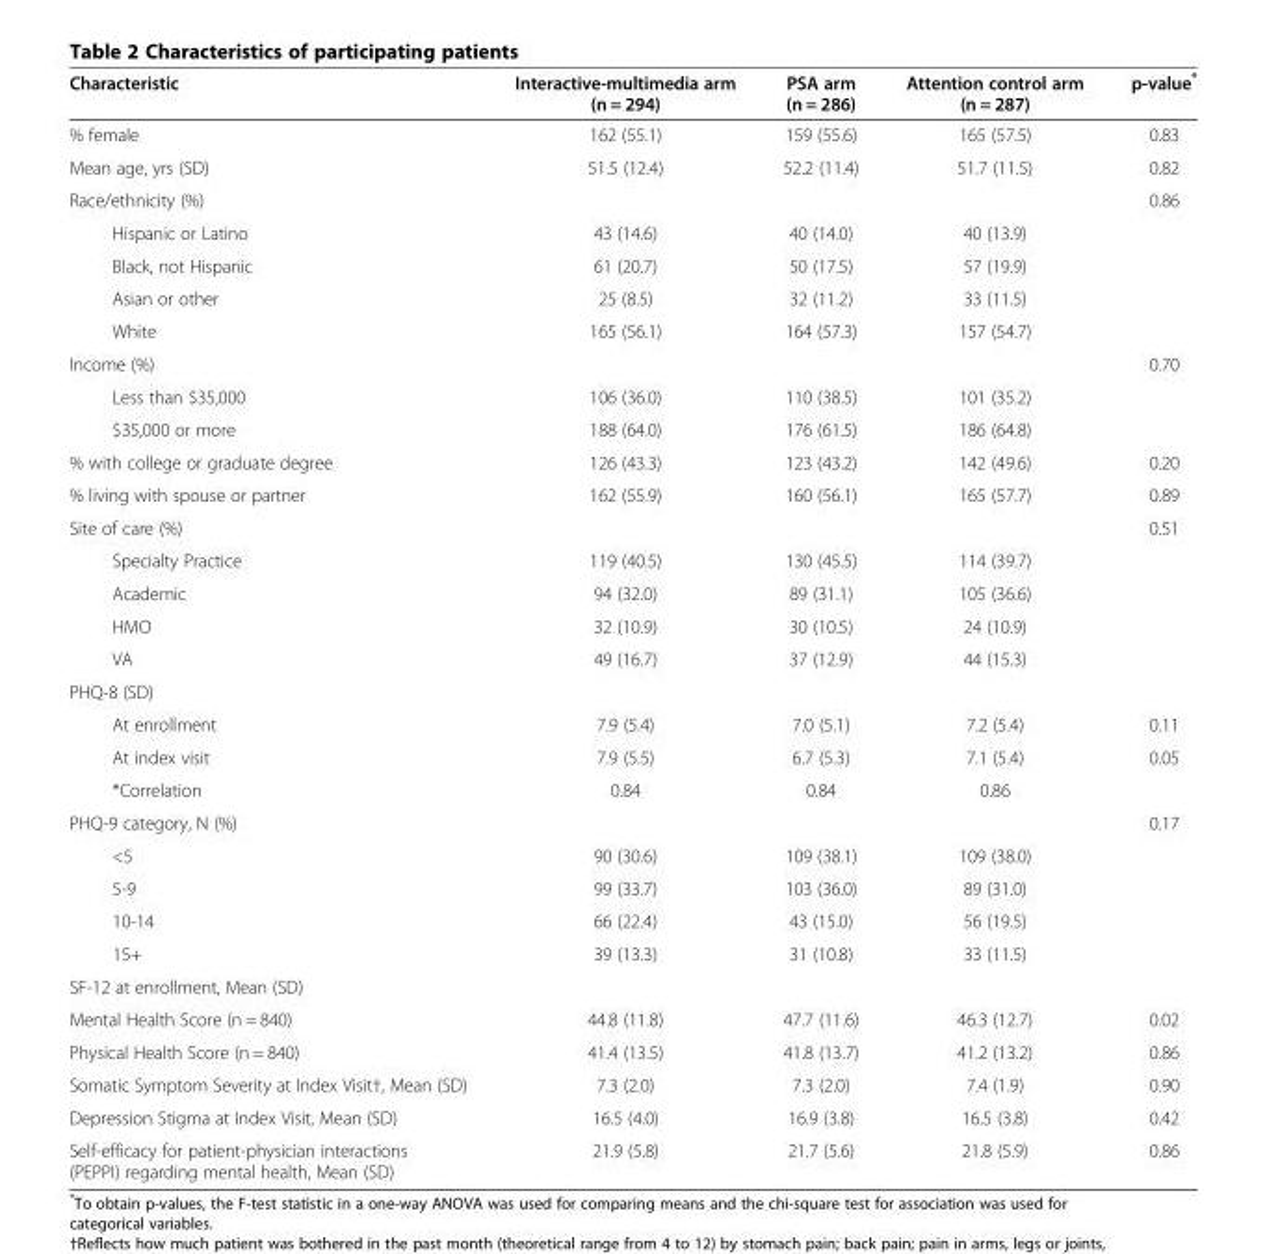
<table><thead><tr><td>Characteristic</td><td>Interactive-multimedia arm (n = 294)</td><td>PSA arm (n = 286)</td><td>Attention control arm (n = 287)</td><td>p-value*</td></tr></thead><tbody><tr><td>% female</td><td>162 (55.1)</td><td>159 (55.6)</td><td>165 (57.5)</td><td>0.83</td></tr><tr><td>Mean age, yrs (SD)</td><td>51.5 (12.4)</td><td>52.2 (11.4)</td><td>51.7 (11.5)</td><td>0.82</td></tr><tr><td>Race/ethnicity (%)</td><td></td><td></td><td></td><td>0.86</td></tr><tr><td>Hispanic or Latino</td><td>43 (14.6)</td><td>40 (14.0)</td><td>40 (13.9)</td><td></td></tr><tr><td>Black, not Hispanic</td><td>61 (20.7)</td><td>50 (17.5)</td><td>57 (19.9)</td><td></td></tr><tr><td>Asian or other</td><td>25 (8.5)</td><td>32 (11.2)</td><td>33 (11.5)</td><td></td></tr><tr><td>White</td><td>165 (56.1)</td><td>164 (57.3)</td><td>157 (54.7)</td><td></td></tr><tr><td>Income (%)</td><td></td><td></td><td></td><td>0.70</td></tr><tr><td>Less than $35,000</td><td>106 (36.0)</td><td>110 (38.5)</td><td>101 (35.2)</td><td></td></tr><tr><td>$35,000 or more</td><td>188 (64.0)</td><td>176 (61.5)</td><td>186 (64.8)</td><td></td></tr><tr><td>% with college or graduate degree</td><td>126 (43.3)</td><td>123 (43.2)</td><td>142 (49.6)</td><td>0.20</td></tr><tr><td>% living with spouse or partner</td><td>162 (55.9)</td><td>160 (56.1)</td><td>165 (57.7)</td><td>0.89</td></tr><tr><td>Site of care (%)</td><td></td><td></td><td></td><td>0.51</td></tr><tr><td>Specialty Practice</td><td>119 (40.5)</td><td>130 (45.5)</td><td>114 (39.7)</td><td></td></tr><tr><td>Academic</td><td>94 (32.0)</td><td>89 (31.1)</td><td>105 (36.6)</td><td></td></tr><tr><td>HMO</td><td>32 (10.9)</td><td>30 (10.5)</td><td>24 (10.9)</td><td></td></tr><tr><td>VA</td><td>49 (16.7)</td><td>37 (12.9)</td><td>44 (15.3)</td><td></td></tr><tr><td colspan="5">PHQ-8 (SD)</td></tr><tr><td>At enrollment</td><td>7.9 (5.4)</td><td>7.0 (5.1)</td><td>7.2 (5.4)</td><td>0.11</td></tr><tr><td>At index visit</td><td>7.9 (5.5)</td><td>6.7 (5.3)</td><td>7.1 (5.4)</td><td>0.05</td></tr><tr><td>*Correlation</td><td>0.84</td><td>0.84</td><td>0.86</td><td></td></tr><tr><td>PHQ-9 category, N (%)</td><td></td><td></td><td></td><td>0.17</td></tr><tr><td>&lt;5</td><td>90 (30.6)</td><td>109 (38.1)</td><td>109 (38.0)</td><td></td></tr><tr><td>5-9</td><td>99 (33.7)</td><td>103 (36.0)</td><td>89 (31.0)</td><td></td></tr><tr><td>10-14</td><td>66 (22.4)</td><td>43 (15.0)</td><td>56 (19.5)</td><td></td></tr><tr><td>15+</td><td>39 (13.3)</td><td>31 (10.8)</td><td>33 (11.5)</td><td></td></tr><tr><td colspan="5">SF-12 at enrollment, Mean (SD)</td></tr><tr><td>Mental Health Score (n = 840)</td><td>44.8 (11.8)</td><td>47.7 (11.6)</td><td>46.3 (12.7)</td><td>0.02</td></tr><tr><td>Physical Health Score (n = 840)</td><td>41.4 (13.5)</td><td>41.8 (13.7)</td><td>41.2 (13.2)</td><td>0.86</td></tr><tr><td>Somatic Symptom Severity at Index Visit†, Mean (SD)</td><td>7.3 (2.0)</td><td>7.3 (2.0)</td><td>7.4 (1.9)</td><td>0.90</td></tr><tr><td>Depression Stigma at Index Visit, Mean (SD)</td><td>16.5 (4.0)</td><td>16.9 (3.8)</td><td>16.5 (3.8)</td><td>0.42</td></tr><tr><td>Self-efficacy for patient-physician interactions (PEPPI) regarding mental health, Mean (SD)</td><td>21.9 (5.8)</td><td>21.7 (5.6)</td><td>21.8 (5.9)</td><td>0.86</td></tr></tbody></table>